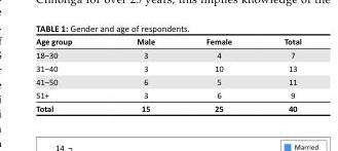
<table><thead><tr><td>Age group</td><td>Male</td><td>Female</td><td>Total</td></tr></thead><tbody><tr><td>18–30</td><td>3</td><td>4</td><td>7</td></tr><tr><td>31–40</td><td>3</td><td>10</td><td>13</td></tr><tr><td>41–50</td><td>6</td><td>5</td><td>11</td></tr><tr><td>51+</td><td>3</td><td>6</td><td>9</td></tr><tr><td>Total</td><td>15</td><td>25</td><td>40</td></tr></tbody></table>